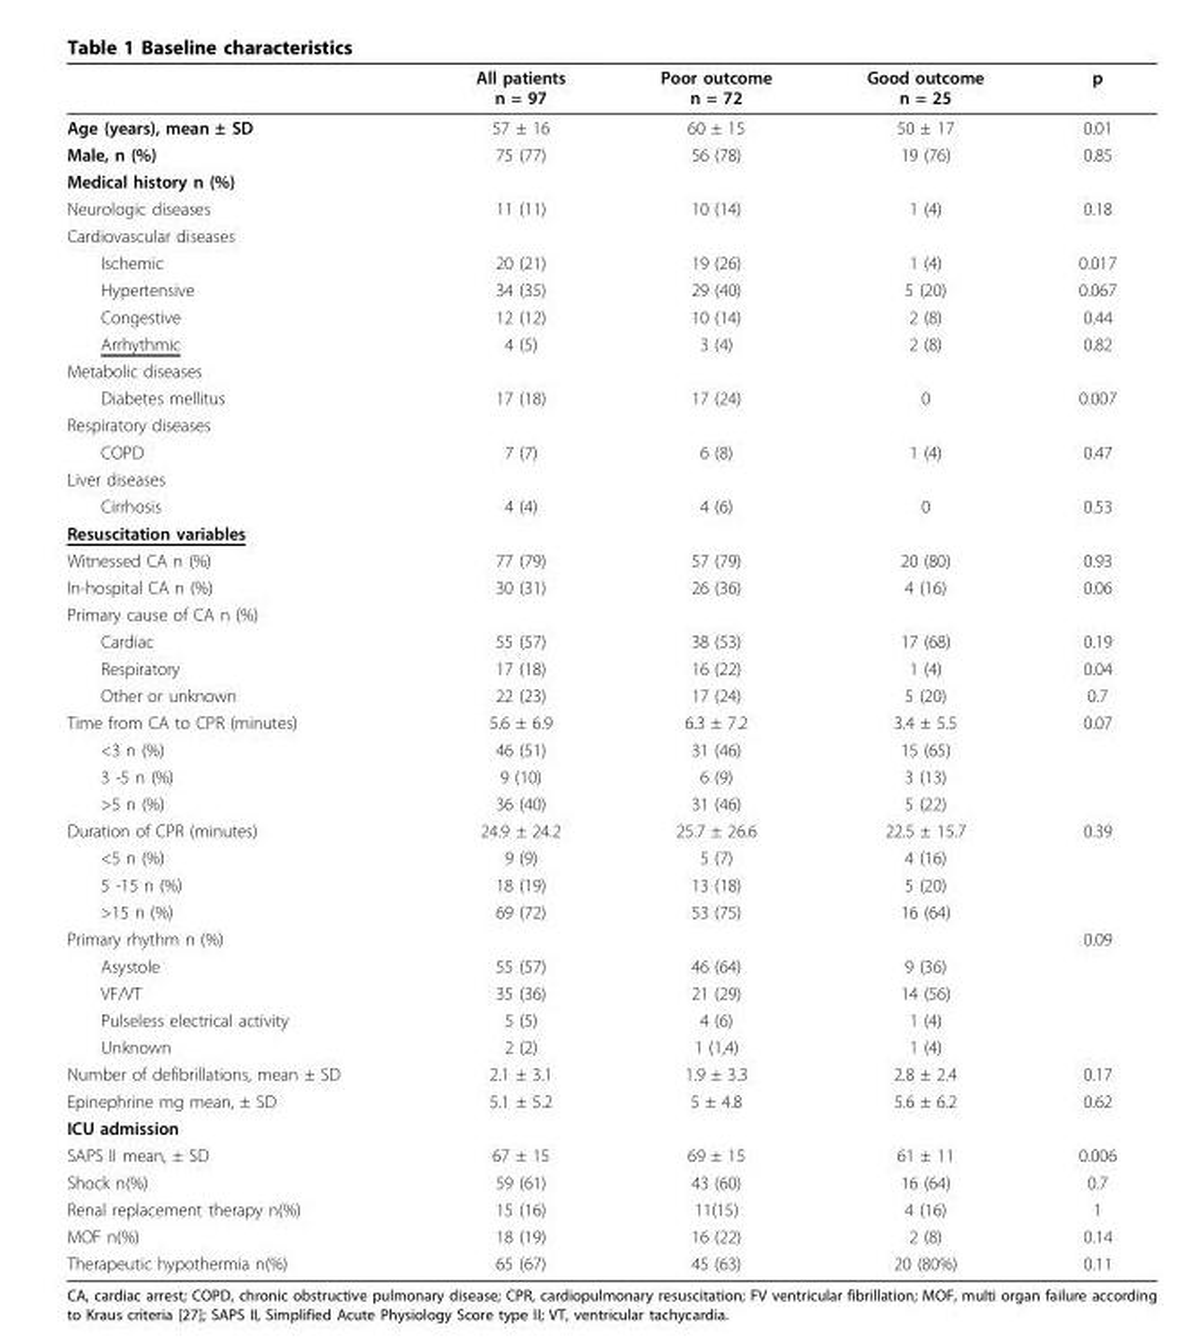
<table><thead><tr><td></td><td>All patients n = 97</td><td>Poor outcome n = 72</td><td>Good outcome n = 25</td><td>p</td></tr></thead><tbody><tr><td>Age (years), mean ± SD</td><td>57 ± 16</td><td>60 ± 15</td><td>50 ± 17</td><td>0.01</td></tr><tr><td>Male, n (%)</td><td>75 (77)</td><td>56 (78)</td><td>19 (76)</td><td>0.85</td></tr><tr><td colspan="5">Medical history n (%)</td></tr><tr><td>Neurologic diseases</td><td>11 (11)</td><td>10 (14)</td><td>1 (4)</td><td>0.18</td></tr><tr><td colspan="5">Cardiovascular diseases</td></tr><tr><td>Ischemic</td><td>20 (21)</td><td>19 (26)</td><td>1 (4)</td><td>0.017</td></tr><tr><td>Hypertensive</td><td>34 (35)</td><td>29 (40)</td><td>5 (20)</td><td>0.067</td></tr><tr><td>Congestive</td><td>12 (12)</td><td>10 (14)</td><td>2 (8)</td><td>0.44</td></tr><tr><td>Arrhythmic</td><td>4 (5)</td><td>3 (4)</td><td>2 (8)</td><td>0.82</td></tr><tr><td colspan="5">Metabolic diseases</td></tr><tr><td>Diabetes mellitus</td><td>17 (18)</td><td>17 (24)</td><td>0</td><td>0.007</td></tr><tr><td colspan="5">Respiratory diseases</td></tr><tr><td>COPD</td><td>7 (7)</td><td>6 (8)</td><td>1 (4)</td><td>0.47</td></tr><tr><td colspan="5">Liver diseases</td></tr><tr><td>Cirrhosis</td><td>4 (4)</td><td>4 (6)</td><td>0</td><td>0.53</td></tr><tr><td colspan="5">Resuscitation variables</td></tr><tr><td>Witnessed CA n (%)</td><td>77 (79)</td><td>57 (79)</td><td>20 (80)</td><td>0.93</td></tr><tr><td>In-hospital CA n (%)</td><td>30 (31)</td><td>26 (36)</td><td>4 (16)</td><td>0.06</td></tr><tr><td colspan="5">Primary cause of CA n (%)</td></tr><tr><td>Cardiac</td><td>55 (57)</td><td>38 (53)</td><td>17 (68)</td><td>0.19</td></tr><tr><td>Respiratory</td><td>17 (18)</td><td>16 (22)</td><td>1 (4)</td><td>0.04</td></tr><tr><td>Other or unknown</td><td>22 (23)</td><td>17 (24)</td><td>5 (20)</td><td>0.7</td></tr><tr><td>Time from CA to CPR (minutes)</td><td>5.6 ± 6.9</td><td>6.3 ± 7.2</td><td>3.4 ± 5.5</td><td>0.07</td></tr><tr><td>&lt;3 n (%)</td><td>46 (51)</td><td>31 (46)</td><td>15 (65)</td><td></td></tr><tr><td>3 -5 n (%)</td><td>9 (10)</td><td>6 (9)</td><td>3 (13)</td><td></td></tr><tr><td>&gt;5 n (%)</td><td>36 (40)</td><td>31 (46)</td><td>5 (22)</td><td></td></tr><tr><td>Duration of CPR (minutes)</td><td>24.9 ± 24.2</td><td>25.7 ± 26.6</td><td>22.5 ± 15.7</td><td>0.39</td></tr><tr><td>&lt;5 n (%)</td><td>9 (9)</td><td>5 (7)</td><td>4 (16)</td><td></td></tr><tr><td>5 -15 n (%)</td><td>18 (19)</td><td>13 (18)</td><td>5 (20)</td><td></td></tr><tr><td>&gt;15 n (%)</td><td>69 (72)</td><td>53 (75)</td><td>16 (64)</td><td></td></tr><tr><td>Primary rhythm n (%)</td><td></td><td></td><td></td><td>0.09</td></tr><tr><td>Asystole</td><td>55 (57)</td><td>46 (64)</td><td>9 (36)</td><td></td></tr><tr><td>VF/VT</td><td>35 (36)</td><td>21 (29)</td><td>14 (56)</td><td></td></tr><tr><td>Pulseless electrical activity</td><td>5 (5)</td><td>4 (6)</td><td>1 (4)</td><td></td></tr><tr><td>Unknown</td><td>2 (2)</td><td>1 (1,4)</td><td>1 (4)</td><td></td></tr><tr><td>Number of defibrillations, mean ± SD</td><td>2.1 ± 3.1</td><td>1.9 ± 3.3</td><td>2.8 ± 2.4</td><td>0.17</td></tr><tr><td>Epinephrine mg mean, ± SD</td><td>5.1 ± 5.2</td><td>5 ± 4.8</td><td>5.6 ± 6.2</td><td>0.62</td></tr><tr><td colspan="5">ICU admission</td></tr><tr><td>SAPS II mean, ± SD</td><td>67 ± 15</td><td>69 ± 15</td><td>61 ± 11</td><td>0.006</td></tr><tr><td>Shock n(%)</td><td>59 (61)</td><td>43 (60)</td><td>16 (64)</td><td>0.7</td></tr><tr><td>Renal replacement therapy n(%)</td><td>15 (16)</td><td>11(15)</td><td>4 (16)</td><td>1</td></tr><tr><td>MOF n(%)</td><td>18 (19)</td><td>16 (22)</td><td>2 (8)</td><td>0.14</td></tr><tr><td>Therapeutic hypothermia n(%)</td><td>65 (67)</td><td>45 (63)</td><td>20 (80%)</td><td>0.11</td></tr></tbody></table>